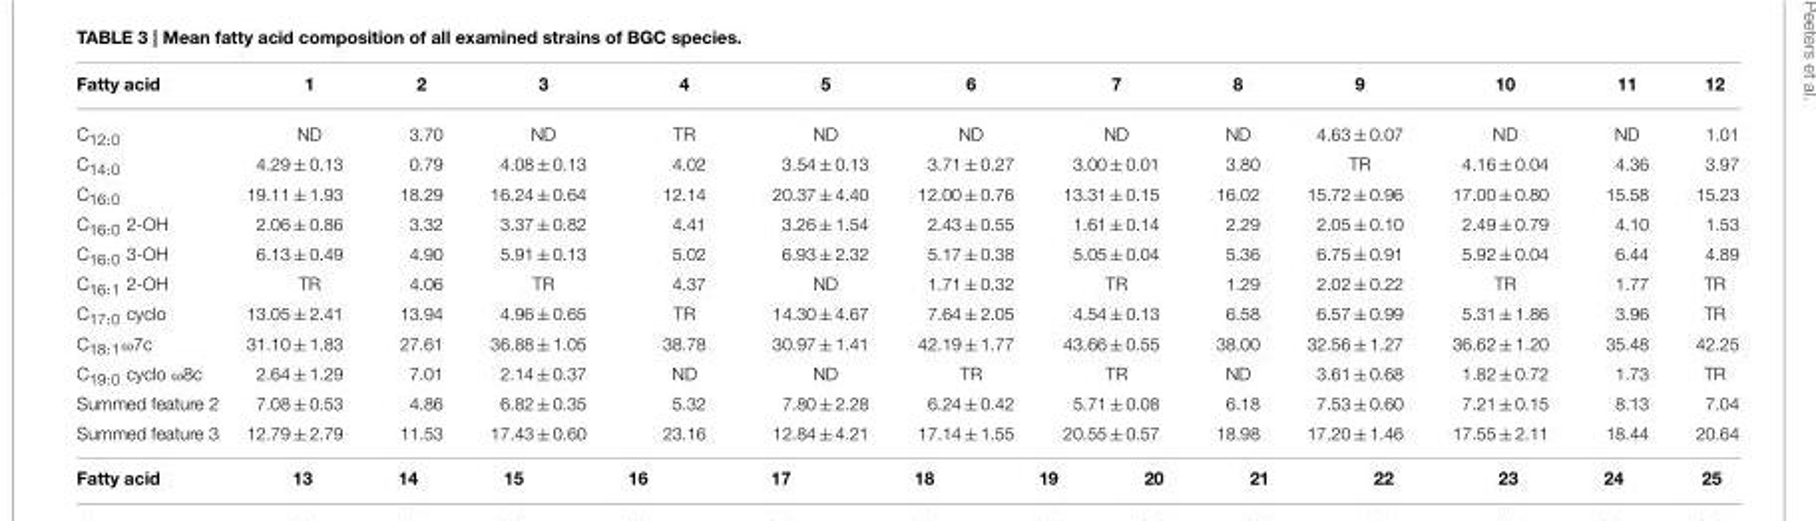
<table><thead><tr><td>Fatty acid</td><td>1</td><td>2</td><td>3</td><td>4</td><td>5</td><td>6</td><td>7</td><td>8</td><td>9</td><td>10</td><td>11</td><td>12</td></tr></thead><tbody><tr><td>C<sub>12:0</sub></td><td>ND</td><td>3.70</td><td>ND</td><td>TR</td><td>ND</td><td>ND</td><td>ND</td><td>ND</td><td>4.63 ± 0.07</td><td>ND</td><td>ND</td><td>1.01</td></tr><tr><td>C<sub>14:0</sub></td><td>4.29 ± 0.13</td><td>0.79</td><td>4.08 ± 0.13</td><td>4.02</td><td>3.54 ± 0.13</td><td>3.71 ± 0.27</td><td>3.00 ± 0.01</td><td>3.80</td><td>TR</td><td>4.16 ± 0.04</td><td>4.36</td><td>3.97</td></tr><tr><td>C<sub>16:0</sub></td><td>19.11 ± 1.93</td><td>18.29</td><td>16.24 ± 0.64</td><td>12.14</td><td>20.37 ± 4.40</td><td>12.00 ± 0.76</td><td>13.31 ± 0.15</td><td>16.02</td><td>15.72 ± 0.96</td><td>17.00 ± 0.80</td><td>15.58</td><td>15.23</td></tr><tr><td>C<sub>16:0</sub> 2-OH</td><td>2.06 ± 0.86</td><td>3.32</td><td>3.37 ± 0.82</td><td>4.41</td><td>3.26 ± 1.54</td><td>2.43 ± 0.55</td><td>1.61 ± 0.14</td><td>2.29</td><td>2.05 ± 0.10</td><td>2.49 ± 0.79</td><td>4.10</td><td>1.53</td></tr><tr><td>C<sub>16:0</sub> 3-OH</td><td>6.13 ± 0.49</td><td>4.90</td><td>5.91 ± 0.13</td><td>5.02</td><td>6.93 ± 2.32</td><td>5.17 ± 0.38</td><td>5.05 ± 0.04</td><td>5.36</td><td>6.75 ± 0.91</td><td>5.92 ± 0.04</td><td>6.44</td><td>4.89</td></tr><tr><td>C<sub>16:1</sub> 2-OH</td><td>TR</td><td>4.06</td><td>TR</td><td>4.37</td><td>ND</td><td>1.71 ± 0.32</td><td>TR</td><td>1.29</td><td>2.02 ± 0.22</td><td>TR</td><td>1.77</td><td>TR</td></tr><tr><td>C<sub>17:0</sub> cyclo</td><td>13.05 ± 2.41</td><td>13.94</td><td>4.96 ± 0.65</td><td>TR</td><td>14.30 ± 4.67</td><td>7.64 ± 2.05</td><td>4.54 ± 0.13</td><td>6.58</td><td>6.57 ± 0.99</td><td>5.31 ± 1.86</td><td>3.96</td><td>TR</td></tr><tr><td>C<sub>18:1</sub>ω7c</td><td>31.10 ± 1.83</td><td>27.61</td><td>36.88 ± 1.05</td><td>38.78</td><td>30.97 ± 1.41</td><td>42.19 ± 1.77</td><td>43.66 ± 0.55</td><td>38.00</td><td>32.56 ± 1.27</td><td>36.62 ± 1.20</td><td>35.48</td><td>42.25</td></tr><tr><td>C<sub>19:0</sub> cyclo ω8c</td><td>2.64 ± 1.29</td><td>7.01</td><td>2.14 ± 0.37</td><td>ND</td><td>ND</td><td>TR</td><td>TR</td><td>ND</td><td>3.61 ± 0.68</td><td>1.82 ± 0.72</td><td>1.73</td><td>TR</td></tr><tr><td>Summed feature 2</td><td>7.08 ± 0.53</td><td>4.86</td><td>6.82 ± 0.35</td><td>5.32</td><td>7.80 ± 2.28</td><td>6.24 ± 0.42</td><td>5.71 ± 0.08</td><td>6.18</td><td>7.53 ± 0.60</td><td>7.21 ± 0.15</td><td>8.13</td><td>7.04</td></tr><tr><td>Summed feature 3</td><td>12.79 ± 2.79</td><td>11.53</td><td>17.43 ± 0.60</td><td>23.16</td><td>12.84 ± 4.21</td><td>17.14 ± 1.55</td><td>20.55 ± 0.57</td><td>18.98</td><td>17.20 ± 1.46</td><td>17.55 ± 2.11</td><td>18.44</td><td>20.64</td></tr></tbody></table>